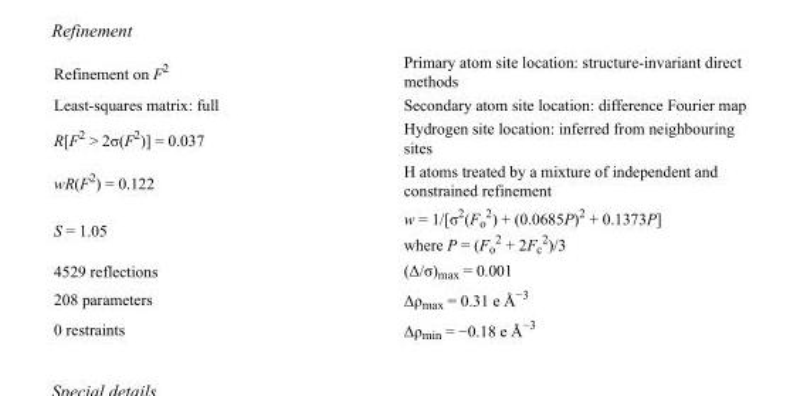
<table><tbody><tr><td>Refinement on F<sup>2</sup></td><td>Primary atom site location: structure-invariant direct methods</td></tr><tr><td>Least-squares matrix: full</td><td>Secondary atom site location: difference Fourier map</td></tr><tr><td>R[F<sup>2</sup> &gt; 2σ(F<sup>2</sup>)] = 0.037</td><td>Hydrogen site location: inferred from neighbouring sites</td></tr><tr><td>wR(F<sup>2</sup>) = 0.122</td><td>H atoms treated by a mixture of independent and constrained refinement</td></tr><tr><td>S = 1.05</td><td>w = 1/[σ<sup>2</sup>(F<sub>o</sub> <sup>2</sup>) + (0.0685P)<sup>2</sup> + 0.1373P] where P = (F<sub>o</sub> <sup>2</sup> + 2F<sub>c</sub> <sup>2</sup>)/3</td></tr><tr><td>4529 reflections</td><td>(Δ/σ)<sub>max</sub> = 0.001</td></tr><tr><td>208 parameters</td><td>Δρ<sub>max</sub> = 0.31 e Å<sup>−3</sup></td></tr><tr><td>0 restraints</td><td>Δρ<sub>min</sub> = −0.18 e Å<sup>−3</sup></td></tr></tbody></table>